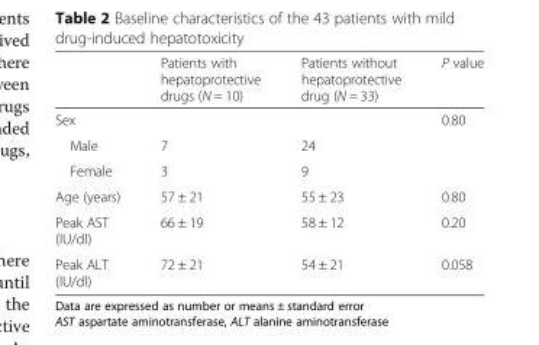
<table><thead><tr><td></td><td>Patients with hepatoprotective drugs (N = 10)</td><td>Patients without hepatoprotective drug (N = 33)</td><td>P value</td></tr></thead><tbody><tr><td>Sex</td><td></td><td></td><td>0.80</td></tr><tr><td>Male</td><td>7</td><td>24</td><td></td></tr><tr><td>Female</td><td>3</td><td>9</td><td></td></tr><tr><td>Age (years)</td><td>57 ± 21</td><td>55 ± 23</td><td>0.80</td></tr><tr><td>Peak AST (IU/dl)</td><td>66 ± 19</td><td>58 ± 12</td><td>0.20</td></tr><tr><td>Peak ALT (IU/dl)</td><td>72 ± 21</td><td>54 ± 21</td><td>0.058</td></tr></tbody></table>